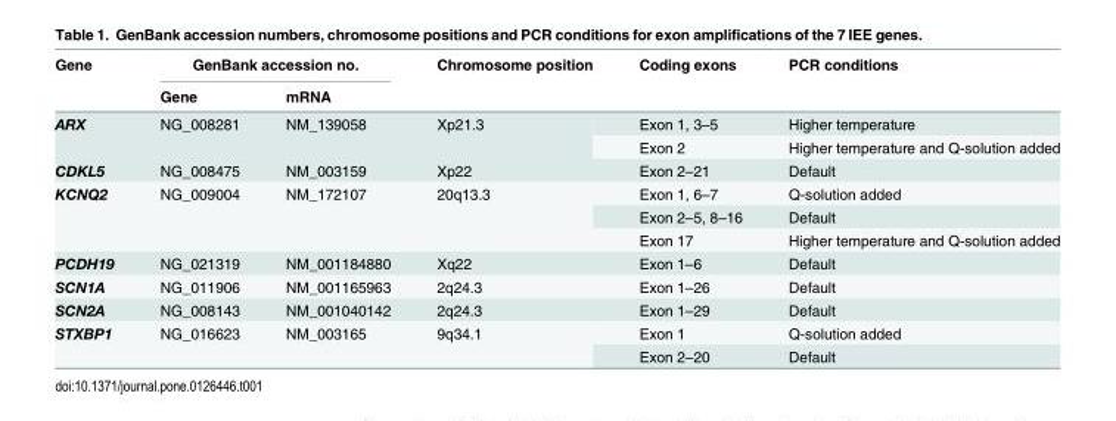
<table><thead><tr><td rowspan="2">Gene</td><td colspan="2">GenBank accession no.</td><td rowspan="2">Chromosome position</td><td rowspan="2">Coding exons</td><td rowspan="2">PCR conditions</td></tr><tr><td>Gene</td><td>mRNA</td></tr></thead><tbody><tr><td rowspan="2">ARX</td><td rowspan="2">NG_008281</td><td rowspan="2">NM_139058</td><td rowspan="2">Xp21.3</td><td>Exon 1, 3–5</td><td>Higher temperature</td></tr><tr><td>Exon 2</td><td>Higher temperature and Q-solution added</td></tr><tr><td>CDKL5</td><td>NG_008475</td><td>NM_003159</td><td>Xp22</td><td>Exon 2–21</td><td>Default</td></tr><tr><td rowspan="3">KCNQ2</td><td rowspan="3">NG_009004</td><td rowspan="3">NM_172107</td><td rowspan="3">20q13.3</td><td>Exon 1, 6–7</td><td>Q-solution added</td></tr><tr><td>Exon 2–5, 8–16</td><td>Default</td></tr><tr><td>Exon 17</td><td>Higher temperature and Q-solution added</td></tr><tr><td>PCDH19</td><td>NG_021319</td><td>NM_001184880</td><td>Xq22</td><td>Exon 1–6</td><td>Default</td></tr><tr><td>SCN1A</td><td>NG_011906</td><td>NM_001165963</td><td>2q24.3</td><td>Exon 1–26</td><td>Default</td></tr><tr><td>SCN2A</td><td>NG_008143</td><td>NM_001040142</td><td>2q24.3</td><td>Exon 1–29</td><td>Default</td></tr><tr><td rowspan="2">STXBP1</td><td rowspan="2">NG_016623</td><td rowspan="2">NM_003165</td><td rowspan="2">9q34.1</td><td>Exon 1</td><td>Q-solution added</td></tr><tr><td>Exon 2–20</td><td>Default</td></tr></tbody></table>